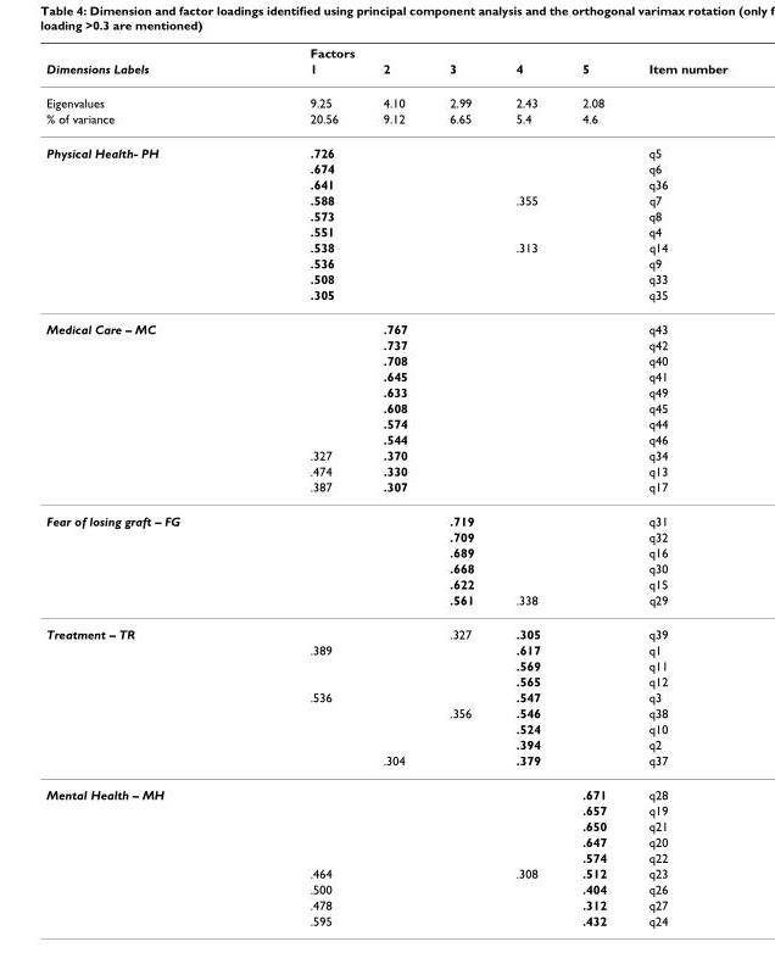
<table><thead><tr><td rowspan="2">Dimensions Labels</td><td colspan="5">Factors</td><td rowspan="2">Item number</td></tr><tr><td>1</td><td>2</td><td>3</td><td>4</td><td>5</td></tr></thead><tbody><tr><td>Eigenvalues</td><td>9.25</td><td>4.10</td><td>2.99</td><td>2.43</td><td>2.08</td><td></td></tr><tr><td>% of variance</td><td>20.56</td><td>9.12</td><td>6.65</td><td>5.4</td><td>4.6</td><td></td></tr><tr><td rowspan="10">Physical Health- PH</td><td>.726</td><td></td><td></td><td></td><td></td><td>q5</td></tr><tr><td>.674</td><td></td><td></td><td></td><td></td><td>q6</td></tr><tr><td>.641</td><td></td><td></td><td></td><td></td><td>q36</td></tr><tr><td>.588</td><td></td><td></td><td>.355</td><td></td><td>q7</td></tr><tr><td>.573</td><td></td><td></td><td></td><td></td><td>q8</td></tr><tr><td>.551</td><td></td><td></td><td></td><td></td><td>q4</td></tr><tr><td>.538</td><td></td><td></td><td>.313</td><td></td><td>q14</td></tr><tr><td>.536</td><td></td><td></td><td></td><td></td><td>q9</td></tr><tr><td>.508</td><td></td><td></td><td></td><td></td><td>q33</td></tr><tr><td>.305</td><td></td><td></td><td></td><td></td><td>q35</td></tr><tr><td rowspan="11">Medical Care – MC</td><td></td><td>.767</td><td></td><td></td><td></td><td>q43</td></tr><tr><td></td><td>.737</td><td></td><td></td><td></td><td>q42</td></tr><tr><td></td><td>.708</td><td></td><td></td><td></td><td>q40</td></tr><tr><td></td><td>.645</td><td></td><td></td><td></td><td>q41</td></tr><tr><td></td><td>.633</td><td></td><td></td><td></td><td>q49</td></tr><tr><td></td><td>.608</td><td></td><td></td><td></td><td>q45</td></tr><tr><td></td><td>.574</td><td></td><td></td><td></td><td>q44</td></tr><tr><td></td><td>.544</td><td></td><td></td><td></td><td>q46</td></tr><tr><td>.327</td><td>.370</td><td></td><td></td><td></td><td>q34</td></tr><tr><td>.474</td><td>.330</td><td></td><td></td><td></td><td>q13</td></tr><tr><td>.387</td><td>.307</td><td></td><td></td><td></td><td>q17</td></tr><tr><td rowspan="6">Fear of losing graft – FG</td><td></td><td></td><td>.719</td><td></td><td></td><td>q31</td></tr><tr><td></td><td></td><td>.709</td><td></td><td></td><td>q32</td></tr><tr><td></td><td></td><td>.689</td><td></td><td></td><td>q16</td></tr><tr><td></td><td></td><td>.668</td><td></td><td></td><td>q30</td></tr><tr><td></td><td></td><td>.622</td><td></td><td></td><td>q15</td></tr><tr><td></td><td></td><td>.561</td><td>.338</td><td></td><td>q29</td></tr><tr><td rowspan="9">Treatment – TR</td><td></td><td></td><td>.327</td><td>.305</td><td></td><td>q39</td></tr><tr><td>.389</td><td></td><td></td><td>.617</td><td></td><td>q1</td></tr><tr><td></td><td></td><td></td><td>.569</td><td></td><td>q11</td></tr><tr><td></td><td></td><td></td><td>.565</td><td></td><td>q12</td></tr><tr><td>.536</td><td></td><td></td><td>.547</td><td></td><td>q3</td></tr><tr><td></td><td></td><td>.356</td><td>.546</td><td></td><td>q38</td></tr><tr><td></td><td></td><td></td><td>.524</td><td></td><td>q10</td></tr><tr><td></td><td></td><td></td><td>.394</td><td></td><td>q2</td></tr><tr><td></td><td>.304</td><td></td><td>.379</td><td></td><td>q37</td></tr><tr><td rowspan="9">Mental Health – MH</td><td></td><td></td><td></td><td></td><td>.671</td><td>q28</td></tr><tr><td></td><td></td><td></td><td></td><td>.657</td><td>q19</td></tr><tr><td></td><td></td><td></td><td></td><td>.650</td><td>q21</td></tr><tr><td></td><td></td><td></td><td></td><td>.647</td><td>q20</td></tr><tr><td></td><td></td><td></td><td></td><td>.574</td><td>q22</td></tr><tr><td>.464</td><td></td><td></td><td>.308</td><td>.512</td><td>q23</td></tr><tr><td>.500</td><td></td><td></td><td></td><td>.404</td><td>q26</td></tr><tr><td>.478</td><td></td><td></td><td></td><td>.312</td><td>q27</td></tr><tr><td>.595</td><td></td><td></td><td></td><td>.432</td><td>q24</td></tr></tbody></table>